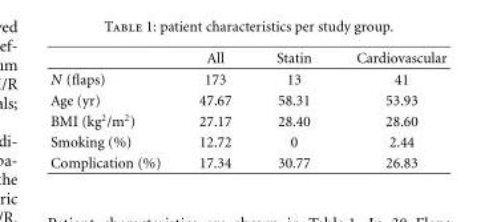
<table><thead><tr><td></td><td>All</td><td>Statin</td><td>Cardiovascular</td></tr></thead><tbody><tr><td>N (flaps)</td><td>173</td><td>13</td><td>41</td></tr><tr><td>Age (yr)</td><td>47.67</td><td>58.31</td><td>53.93</td></tr><tr><td>BMI (kg<sup>2</sup>/m<sup>2</sup>)</td><td>27.17</td><td>28.40</td><td>28.60</td></tr><tr><td>Smoking (%)</td><td>12.72</td><td>0</td><td>2.44</td></tr><tr><td>Complication (%)</td><td>17.34</td><td>30.77</td><td>26.83</td></tr></tbody></table>